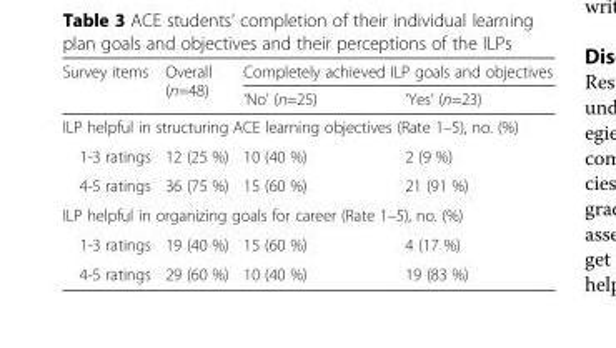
<table><thead><tr><td rowspan="2">Survey items</td><td rowspan="2">Overall (n=48)</td><td colspan="2">Completely achieved ILP goals and objectives</td></tr><tr><td>‘No’ (n=25)</td><td>‘Yes’ (n=23)</td></tr></thead><tbody><tr><td colspan="4">ILP helpful in structuring ACE learning objectives (Rate 1–5), no. (%)</td></tr><tr><td>1-3 ratings</td><td>12 (25 %)</td><td>10 (40 %)</td><td>2 (9 %)</td></tr><tr><td>4-5 ratings</td><td>36 (75 %)</td><td>15 (60 %)</td><td>21 (91 %)</td></tr><tr><td colspan="4">ILP helpful in organizing goals for career (Rate 1–5), no. (%)</td></tr><tr><td>1-3 ratings</td><td>19 (40 %)</td><td>15 (60 %)</td><td>4 (17 %)</td></tr><tr><td>4-5 ratings</td><td>29 (60 %)</td><td>10 (40 %)</td><td>19 (83 %)</td></tr></tbody></table>